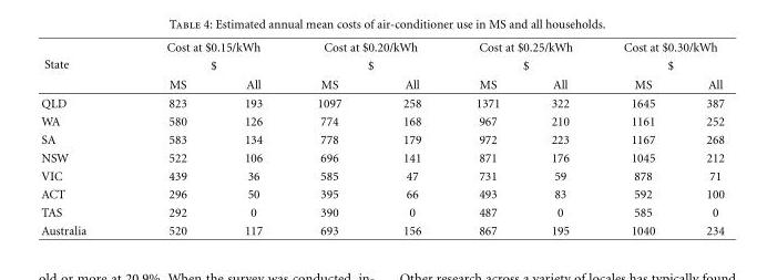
<table><thead><tr><td rowspan="3">State</td><td rowspan="2" colspan="2">Cost at $0.15/kWh $</td><td rowspan="2" colspan="2">Cost at $0.20/kWh $</td><td rowspan="2" colspan="2">Cost at $0.25/kWh $</td><td rowspan="2" colspan="2">Cost at $0.30/kWh $</td></tr><tr></tr><tr><td>MS</td><td>All</td><td>MS</td><td>All</td><td>MS</td><td>All</td><td>MS</td><td>All</td></tr></thead><tbody><tr><td>QLD</td><td>823</td><td>193</td><td>1097</td><td>258</td><td>1371</td><td>322</td><td>1645</td><td>387</td></tr><tr><td>WA</td><td>580</td><td>126</td><td>774</td><td>168</td><td>967</td><td>210</td><td>1161</td><td>252</td></tr><tr><td>SA</td><td>583</td><td>134</td><td>778</td><td>179</td><td>972</td><td>223</td><td>1167</td><td>268</td></tr><tr><td>NSW</td><td>522</td><td>106</td><td>696</td><td>141</td><td>871</td><td>176</td><td>1045</td><td>212</td></tr><tr><td>VIC</td><td>439</td><td>36</td><td>585</td><td>47</td><td>731</td><td>59</td><td>878</td><td>71</td></tr><tr><td>ACT</td><td>296</td><td>50</td><td>395</td><td>66</td><td>493</td><td>83</td><td>592</td><td>100</td></tr><tr><td>TAS</td><td>292</td><td>0</td><td>390</td><td>0</td><td>487</td><td>0</td><td>585</td><td>0</td></tr><tr><td>Australia</td><td>520</td><td>117</td><td>693</td><td>156</td><td>867</td><td>195</td><td>1040</td><td>234</td></tr></tbody></table>